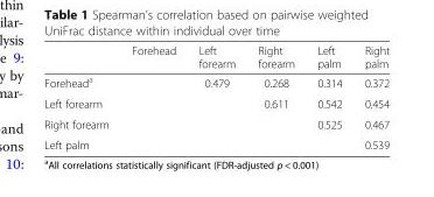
<table><thead><tr><td></td><td>Forehead</td><td>Left forearm</td><td>Right forearm</td><td>Left palm</td><td>Right palm</td></tr></thead><tbody><tr><td>Forehead<sup>a</sup></td><td></td><td>0.479</td><td>0.268</td><td>0.314</td><td>0.372</td></tr><tr><td>Left forearm</td><td></td><td></td><td>0.611</td><td>0.542</td><td>0.454</td></tr><tr><td>Right forearm</td><td></td><td></td><td></td><td>0.525</td><td>0.467</td></tr><tr><td>Left palm</td><td></td><td></td><td></td><td></td><td>0.539</td></tr></tbody></table>